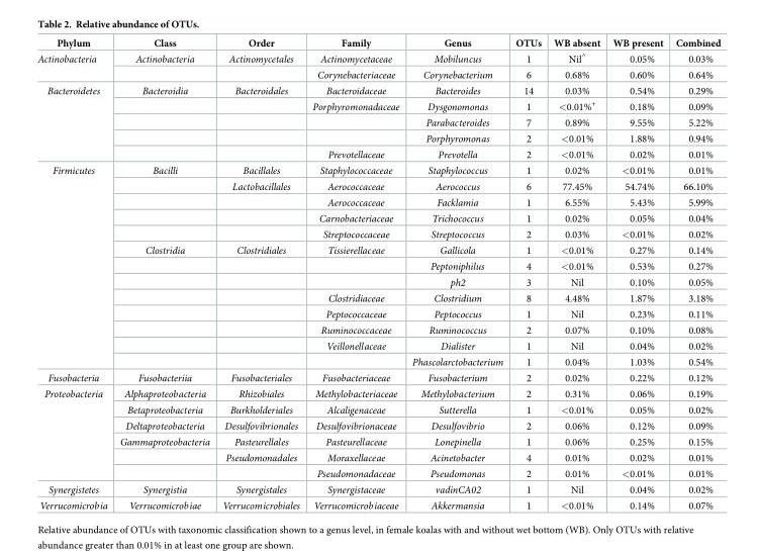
<table><thead><tr><td>Phylum</td><td>Class</td><td>Order</td><td>Family</td><td>Genus</td><td>OTUs</td><td>WB absent</td><td>WB present</td><td>Combined</td></tr></thead><tbody><tr><td rowspan="2">Actinobacteria</td><td>Actinobacteria</td><td>Actinomycetales</td><td>Actinomycetaceae</td><td>Mobiluncus</td><td>1</td><td>Nil<sup>^</sup></td><td>0.05%</td><td>0.03%</td></tr><tr><td></td><td></td><td>Corynebacteriaceae</td><td>Corynebacterium</td><td>6</td><td>0.68%</td><td>0.60%</td><td>0.64%</td></tr><tr><td rowspan="5">Bacteroidetes</td><td>Bacteroidia</td><td>Bacteroidales</td><td>Bacteroidaceae</td><td>Bacteroides</td><td>14</td><td>0.03%</td><td>0.54%</td><td>0.29%</td></tr><tr><td></td><td></td><td>Porphyromonadaceae</td><td>Dysgonomonas</td><td>1</td><td>&lt;0.01%<sup>+</sup></td><td>0.18%</td><td>0.09%</td></tr><tr><td></td><td></td><td></td><td>Parabacteroides</td><td>7</td><td>0.89%</td><td>9.55%</td><td>5.22%</td></tr><tr><td></td><td></td><td></td><td>Porphyromonas</td><td>2</td><td>&lt;0.01%</td><td>1.88%</td><td>0.94%</td></tr><tr><td></td><td></td><td>Prevotellaceae</td><td>Prevotella</td><td>2</td><td>&lt;0.01%</td><td>0.02%</td><td>0.01%</td></tr><tr><td rowspan="13">Firmicutes</td><td>Bacilli</td><td>Bacillales</td><td>Staphylococcaceae</td><td>Staphylococcus</td><td>1</td><td>0.02%</td><td>&lt;0.01%</td><td>0.01%</td></tr><tr><td></td><td>Lactobacillales</td><td>Aerococcaceae</td><td>Aerococcus</td><td>6</td><td>77.45%</td><td>54.74%</td><td>66.10%</td></tr><tr><td></td><td></td><td>Aerococcaceae</td><td>Facklamia</td><td>1</td><td>6.55%</td><td>5.43%</td><td>5.99%</td></tr><tr><td></td><td></td><td>Carnobacteriaceae</td><td>Trichococcus</td><td>1</td><td>0.02%</td><td>0.05%</td><td>0.04%</td></tr><tr><td></td><td></td><td>Streptococcaceae</td><td>Streptococcus</td><td>2</td><td>0.03%</td><td>&lt;0.01%</td><td>0.02%</td></tr><tr><td>Clostridia</td><td>Clostridiales</td><td>Tissierellaceae</td><td>Gallicola</td><td>1</td><td>&lt;0.01%</td><td>0.27%</td><td>0.14%</td></tr><tr><td></td><td></td><td></td><td>Peptoniphilus</td><td>4</td><td>&lt;0.01%</td><td>0.53%</td><td>0.27%</td></tr><tr><td></td><td></td><td></td><td>ph2</td><td>3</td><td>Nil</td><td>0.10%</td><td>0.05%</td></tr><tr><td></td><td></td><td>Clostridiaceae</td><td>Clostridium</td><td>8</td><td>4.48%</td><td>1.87%</td><td>3.18%</td></tr><tr><td></td><td></td><td>Peptococcaceae</td><td>Peptococcus</td><td>1</td><td>Nil</td><td>0.23%</td><td>0.11%</td></tr><tr><td></td><td></td><td>Ruminococcaceae</td><td>Ruminococcus</td><td>2</td><td>0.07%</td><td>0.10%</td><td>0.08%</td></tr><tr><td></td><td></td><td>Veillonellaceae</td><td>Dialister</td><td>1</td><td>Nil</td><td>0.04%</td><td>0.02%</td></tr><tr><td></td><td></td><td></td><td>Phascolarctobacterium</td><td>1</td><td>0.04%</td><td>1.03%</td><td>0.54%</td></tr><tr><td>Fusobacteria</td><td>Fusobacteriia</td><td>Fusobacteriales</td><td>Fusobacteriaceae</td><td>Fusobacterium</td><td>2</td><td>0.02%</td><td>0.22%</td><td>0.12%</td></tr><tr><td rowspan="6">Proteobacteria</td><td>Alphaproteobacteria</td><td>Rhizobiales</td><td>Methylobacteriaceae</td><td>Methylobacterium</td><td>2</td><td>0.31%</td><td>0.06%</td><td>0.19%</td></tr><tr><td>Betaproteobacteria</td><td>Burkholderiales</td><td>Alcaligenaceae</td><td>Sutterella</td><td>1</td><td>&lt;0.01%</td><td>0.05%</td><td>0.02%</td></tr><tr><td>Deltaproteobacteria</td><td>Desulfovibrionales</td><td>Desulfovibrionaceae</td><td>Desulfovibrio</td><td>2</td><td>0.06%</td><td>0.12%</td><td>0.09%</td></tr><tr><td>Gammaproteobacteria</td><td>Pasteurellales</td><td>Pasteurellaceae</td><td>Lonepinella</td><td>1</td><td>0.06%</td><td>0.25%</td><td>0.15%</td></tr><tr><td></td><td>Pseudomonadales</td><td>Moraxellaceae</td><td>Acinetobacter</td><td>4</td><td>0.01%</td><td>0.02%</td><td>0.01%</td></tr><tr><td></td><td></td><td>Pseudomonadaceae</td><td>Pseudomonas</td><td>2</td><td>0.01%</td><td>&lt;0.01%</td><td>0.01%</td></tr><tr><td>Synergistetes</td><td>Synergistia</td><td>Synergistales</td><td>Synergistaceae</td><td>vadinCA02</td><td>1</td><td>Nil</td><td>0.04%</td><td>0.02%</td></tr><tr><td>Verrucomicrobia</td><td>Verrucomicrobiae</td><td>Verrucomicrobiales</td><td>Verrucomicrobiaceae</td><td>Akkermansia</td><td>1</td><td>&lt;0.01%</td><td>0.14%</td><td>0.07%</td></tr></tbody></table>